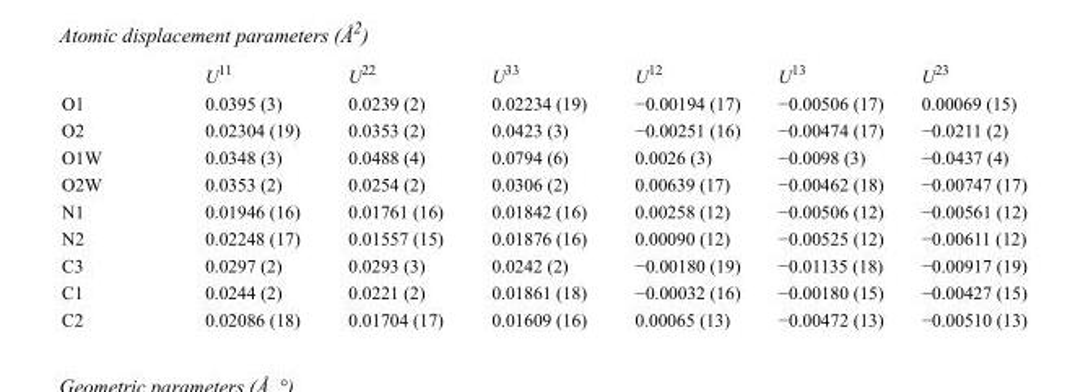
<table><thead><tr><td></td><td>U<sup>11</sup></td><td>U<sup>22</sup></td><td>U<sup>33</sup></td><td>U<sup>12</sup></td><td>U<sup>13</sup></td><td>U<sup>23</sup></td></tr></thead><tbody><tr><td>O1</td><td>0.0395 (3)</td><td>0.0239 (2)</td><td>0.02234 (19)</td><td>−0.00194 (17)</td><td>−0.00506 (17)</td><td>0.00069 (15)</td></tr><tr><td>O2</td><td>0.02304 (19)</td><td>0.0353 (2)</td><td>0.0423 (3)</td><td>−0.00251 (16)</td><td>−0.00474 (17)</td><td>−0.0211 (2)</td></tr><tr><td>O1W</td><td>0.0348 (3)</td><td>0.0488 (4)</td><td>0.0794 (6)</td><td>0.0026 (3)</td><td>−0.0098 (3)</td><td>−0.0437 (4)</td></tr><tr><td>O2W</td><td>0.0353 (2)</td><td>0.0254 (2)</td><td>0.0306 (2)</td><td>0.00639 (17)</td><td>−0.00462 (18)</td><td>−0.00747 (17)</td></tr><tr><td>N1</td><td>0.01946 (16)</td><td>0.01761 (16)</td><td>0.01842 (16)</td><td>0.00258 (12)</td><td>−0.00506 (12)</td><td>−0.00561 (12)</td></tr><tr><td>N2</td><td>0.02248 (17)</td><td>0.01557 (15)</td><td>0.01876 (16)</td><td>0.00090 (12)</td><td>−0.00525 (12)</td><td>−0.00611 (12)</td></tr><tr><td>C3</td><td>0.0297 (2)</td><td>0.0293 (3)</td><td>0.0242 (2)</td><td>−0.00180 (19)</td><td>−0.01135 (18)</td><td>−0.00917 (19)</td></tr><tr><td>C1</td><td>0.0244 (2)</td><td>0.0221 (2)</td><td>0.01861 (18)</td><td>−0.00032 (16)</td><td>−0.00180 (15)</td><td>−0.00427 (15)</td></tr><tr><td>C2</td><td>0.02086 (18)</td><td>0.01704 (17)</td><td>0.01609 (16)</td><td>0.00065 (13)</td><td>−0.00472 (13)</td><td>−0.00510 (13)</td></tr></tbody></table>